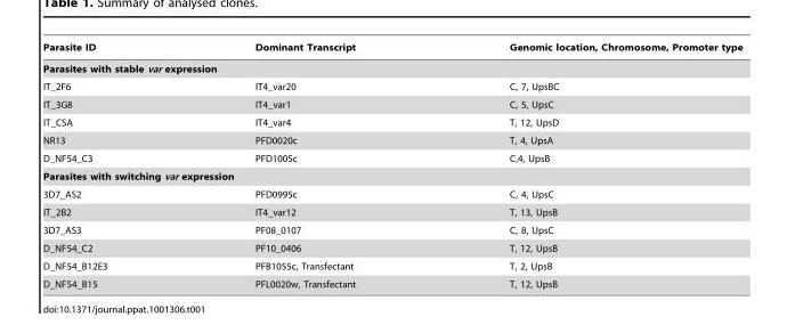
<table><thead><tr><td>Parasite ID</td><td>Dominant Transcript</td><td>Genomic location, Chromosome, Promoter type</td></tr></thead><tbody><tr><td colspan="3">Parasites with stable var expression</td></tr><tr><td>IT_2F6</td><td>IT4_var20</td><td>C, 7, UpsBC</td></tr><tr><td>IT_3G8</td><td>IT4_var1</td><td>C, 5, UpsC</td></tr><tr><td>IT_CSA</td><td>IT4_var4</td><td>T, 12, UpsD</td></tr><tr><td>NR13</td><td>PFD0020c</td><td>T, 4, UpsA</td></tr><tr><td>D_NF54_C3</td><td>PFD1005c</td><td>C,4, UpsB</td></tr><tr><td colspan="3">Parasites with switching var expression</td></tr><tr><td>3D7_AS2</td><td>PFD0995c</td><td>C, 4, UpsC</td></tr><tr><td>IT_2B2</td><td>IT4_var12</td><td>T, 13, UpsB</td></tr><tr><td>3D7_AS3</td><td>PF08_0107</td><td>C, 8, UpsC</td></tr><tr><td>D_NF54_C2</td><td>PF10_0406</td><td>T, 12, UpsB</td></tr><tr><td>D_NF54_B12E3</td><td>PFB1055c, Transfectant</td><td>T, 2, UpsB</td></tr><tr><td>D_NF54_B15</td><td>PFL0020w, Transfectant</td><td>T, 12, UpsB</td></tr></tbody></table>